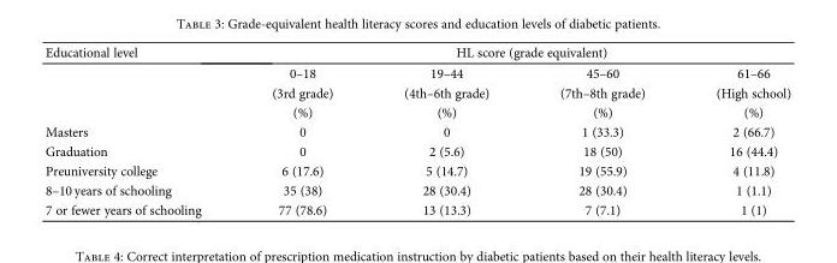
<table><thead><tr><td rowspan="2">Educational level</td><td colspan="4">HL score (grade equivalent)</td></tr><tr><td>0–18</td><td>19–44</td><td>45–60</td><td>61–66</td></tr></thead><tbody><tr><td></td><td>(3rd grade)</td><td>(4th–6th grade)</td><td>(7th–8th grade)</td><td>(High school)</td></tr><tr><td></td><td>(%)</td><td>(%)</td><td>(%)</td><td>(%)</td></tr><tr><td>Masters</td><td>0</td><td>0</td><td>1 (33.3)</td><td>2 (66.7)</td></tr><tr><td>Graduation</td><td>0</td><td>2 (5.6)</td><td>18 (50)</td><td>16 (44.4)</td></tr><tr><td>Preuniversity college</td><td>6 (17.6)</td><td>5 (14.7)</td><td>19 (55.9)</td><td>4 (11.8)</td></tr><tr><td>8–10 years of schooling</td><td>35 (38)</td><td>28 (30.4)</td><td>28 (30.4)</td><td>1 (1.1)</td></tr><tr><td>7 or fewer years of schooling</td><td>77 (78.6)</td><td>13 (13.3)</td><td>7 (7.1)</td><td>1 (1)</td></tr></tbody></table>